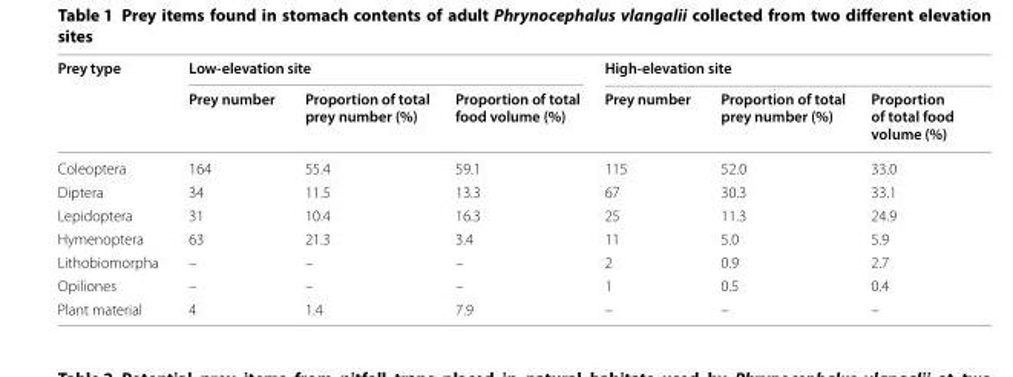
<table><thead><tr><td rowspan="2">Prey type</td><td colspan="3">Low-elevation site</td><td colspan="3">High-elevation site</td></tr><tr><td>Prey number</td><td>Proportion of total prey number (%)</td><td>Proportion of total food volume (%)</td><td>Prey number</td><td>Proportion of total prey number (%)</td><td>Proportion of total food volume (%)</td></tr></thead><tbody><tr><td>Coleoptera</td><td>164</td><td>55.4</td><td>59.1</td><td>115</td><td>52.0</td><td>33.0</td></tr><tr><td>Diptera</td><td>34</td><td>11.5</td><td>13.3</td><td>67</td><td>30.3</td><td>33.1</td></tr><tr><td>Lepidoptera</td><td>31</td><td>10.4</td><td>16.3</td><td>25</td><td>11.3</td><td>24.9</td></tr><tr><td>Hymenoptera</td><td>63</td><td>21.3</td><td>3.4</td><td>11</td><td>5.0</td><td>5.9</td></tr><tr><td>Lithobiomorpha</td><td>–</td><td>–</td><td>–</td><td>2</td><td>0.9</td><td>2.7</td></tr><tr><td>Opiliones</td><td>–</td><td>–</td><td>–</td><td>1</td><td>0.5</td><td>0.4</td></tr><tr><td>Plant material</td><td>4</td><td>1.4</td><td>7.9</td><td>–</td><td>–</td><td>–</td></tr></tbody></table>